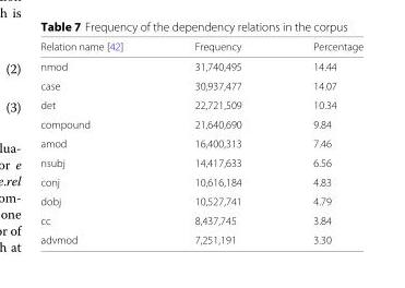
<table><thead><tr><td>Relation name [42]</td><td>Frequency</td><td>Percentage</td></tr></thead><tbody><tr><td>nmod</td><td>31,740,495</td><td>14.44</td></tr><tr><td>case</td><td>30,937,477</td><td>14.07</td></tr><tr><td>det</td><td>22,721,509</td><td>10.34</td></tr><tr><td>compound</td><td>21,640,690</td><td>9.84</td></tr><tr><td>amod</td><td>16,400,313</td><td>7.46</td></tr><tr><td>nsubj</td><td>14,417,633</td><td>6.56</td></tr><tr><td>conj</td><td>10,616,184</td><td>4.83</td></tr><tr><td>dobj</td><td>10,527,741</td><td>4.79</td></tr><tr><td>cc</td><td>8,437,745</td><td>3.84</td></tr><tr><td>advmod</td><td>7,251,191</td><td>3.30</td></tr></tbody></table>